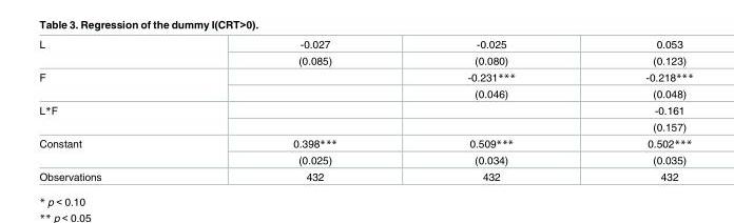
<table><tbody><tr><td rowspan="2">L</td><td>-0.027</td><td>-0.025</td><td>0.053</td></tr><tr><td>(0.085)</td><td>(0.080)</td><td>(0.123)</td></tr><tr><td rowspan="2">F</td><td></td><td>-0.231***</td><td>-0.218***</td></tr><tr><td></td><td>(0.046)</td><td>(0.048)</td></tr><tr><td rowspan="2">L*F</td><td></td><td></td><td>-0.161</td></tr><tr><td></td><td></td><td>(0.157)</td></tr><tr><td rowspan="2">Constant</td><td>0.398***</td><td>0.509***</td><td>0.502***</td></tr><tr><td>(0.025)</td><td>(0.034)</td><td>(0.035)</td></tr><tr><td>Observations</td><td>432</td><td>432</td><td>432</td></tr></tbody></table>